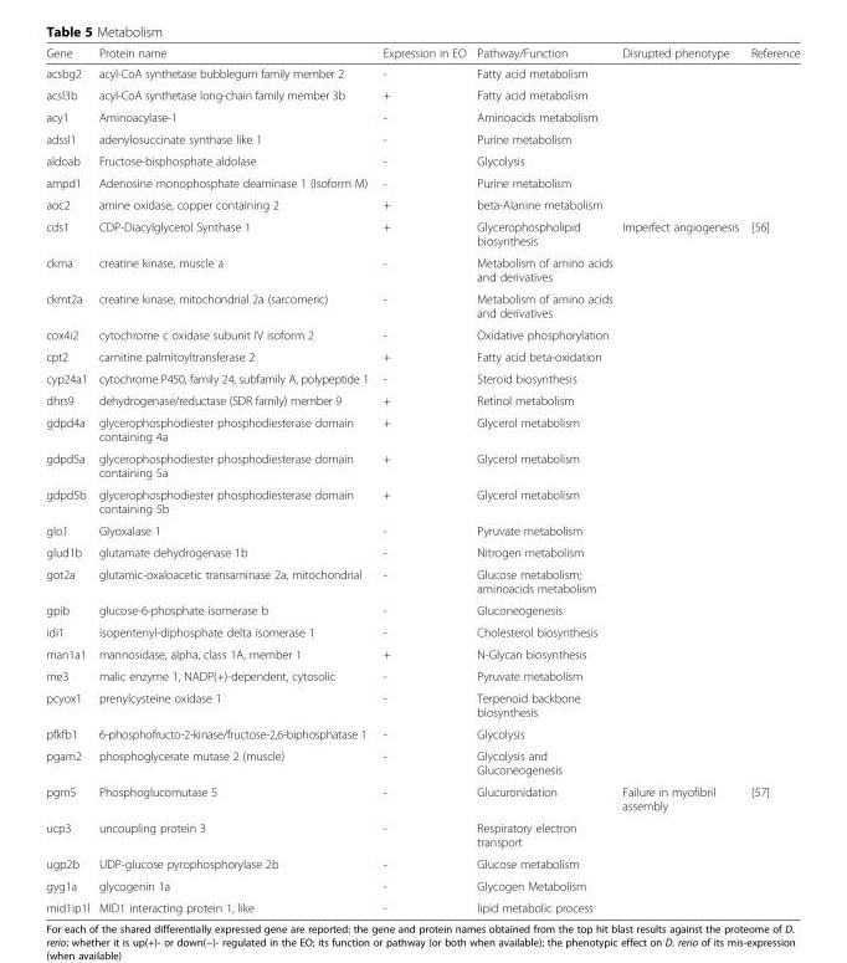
<table><thead><tr><td>Gene</td><td>Protein name</td><td>Expression in EO</td><td>Pathway/Function</td><td>Disrupted phenotype</td><td>Reference</td></tr></thead><tbody><tr><td>acsbg2</td><td>acyl-CoA synthetase bubblegum family member 2</td><td>-</td><td>Fatty acid metabolism</td><td></td><td></td></tr><tr><td>acsl3b</td><td>acyl-CoA synthetase long-chain family member 3b</td><td>+</td><td>Fatty acid metabolism</td><td></td><td></td></tr><tr><td>acy1</td><td>Aminoacylase-1</td><td>-</td><td>Aminoacids metabolism</td><td></td><td></td></tr><tr><td>adssl1</td><td>adenylosuccinate synthase like 1</td><td>-</td><td>Purine metabolism</td><td></td><td></td></tr><tr><td>aldoab</td><td>Fructose-bisphosphate aldolase</td><td>-</td><td>Glycolysis</td><td></td><td></td></tr><tr><td>ampd1</td><td>Adenosine monophosphate deaminase 1 (Isoform M)</td><td>-</td><td>Purine metabolism</td><td></td><td></td></tr><tr><td>aoc2</td><td>amine oxidase, copper containing 2</td><td>+</td><td>beta-Alanine metabolism</td><td></td><td></td></tr><tr><td>cds1</td><td>CDP-Diacylglycerol Synthase 1</td><td>+</td><td>Glycerophospholipid biosynthesis</td><td>Imperfect angiogenesis</td><td>[56]</td></tr><tr><td>ckma</td><td>creatine kinase, muscle a</td><td>-</td><td>Metabolism of amino acids and derivatives</td><td></td><td></td></tr><tr><td>ckmt2a</td><td>creatine kinase, mitochondrial 2a (sarcomeric)</td><td>-</td><td>Metabolism of amino acids and derivatives</td><td></td><td></td></tr><tr><td>cox4i2</td><td>cytochrome c oxidase subunit IV isoform 2</td><td>-</td><td>Oxidative phosphorylation</td><td></td><td></td></tr><tr><td>cpt2</td><td>carnitine palmitoyltransferase 2</td><td>+</td><td>Fatty acid beta-oxidation</td><td></td><td></td></tr><tr><td>cyp24a1</td><td>cytochrome P450, family 24, subfamily A, polypeptide 1</td><td>-</td><td>Steroid biosynthesis</td><td></td><td></td></tr><tr><td>dhrs9</td><td>dehydrogenase/reductase (SDR family) member 9</td><td>+</td><td>Retinol metabolism</td><td></td><td></td></tr><tr><td>gdpd4a</td><td>glycerophosphodiester phosphodiesterase domain containing 4a</td><td>+</td><td>Glycerol metabolism</td><td></td><td></td></tr><tr><td>gdpd5a</td><td>glycerophosphodiester phosphodiesterase domain containing 5a</td><td>+</td><td>Glycerol metabolism</td><td></td><td></td></tr><tr><td>gdpd5b</td><td>glycerophosphodiester phosphodiesterase domain containing 5b</td><td>+</td><td>Glycerol metabolism</td><td></td><td></td></tr><tr><td>glo1</td><td>Glyoxalase 1</td><td>-</td><td>Pyruvate metabolism</td><td></td><td></td></tr><tr><td>glud1b</td><td>glutamate dehydrogenase 1b</td><td>-</td><td>Nitrogen metabolism</td><td></td><td></td></tr><tr><td>got2a</td><td>glutamic-oxaloacetic transaminase 2a, mitochondrial</td><td>-</td><td>Glucose metabolism; aminoacids metabolism</td><td></td><td></td></tr><tr><td>gpib</td><td>glucose-6-phosphate isomerase b</td><td>-</td><td>Gluconeogenesis</td><td></td><td></td></tr><tr><td>idi1</td><td>isopentenyl-diphosphate delta isomerase 1</td><td>-</td><td>Cholesterol biosynthesis</td><td></td><td></td></tr><tr><td>man1a1</td><td>mannosidase, alpha, class 1A, member 1</td><td>+</td><td>N-Glycan biosynthesis</td><td></td><td></td></tr><tr><td>me3</td><td>malic enzyme 1, NADP(+)-dependent, cytosolic</td><td>-</td><td>Pyruvate metabolism</td><td></td><td></td></tr><tr><td>pcyox1</td><td>prenylcysteine oxidase 1</td><td>-</td><td>Terpenoid backbone biosynthesis</td><td></td><td></td></tr><tr><td>pfkfb1</td><td>6-phosphofructo-2-kinase/fructose-2,6-biphosphatase 1</td><td>-</td><td>Glycolysis</td><td></td><td></td></tr><tr><td>pgam2</td><td>phosphoglycerate mutase 2 (muscle)</td><td>-</td><td>Glycolysis and Gluconeogenesis</td><td></td><td></td></tr><tr><td>pgm5</td><td>Phosphoglucomutase 5</td><td>-</td><td>Glucuronidation</td><td>Failure in myofibril assembly</td><td>[57]</td></tr><tr><td>ucp3</td><td>uncoupling protein 3</td><td>-</td><td>Respiratory electron transport</td><td></td><td></td></tr><tr><td>ugp2b</td><td>UDP-glucose pyrophosphorylase 2b</td><td>-</td><td>Glucose metabolism</td><td></td><td></td></tr><tr><td>gyg1a</td><td>glycogenin 1a</td><td>-</td><td>Glycogen Metabolism</td><td></td><td></td></tr><tr><td>mid1ip1l</td><td>MID1 interacting protein 1, like</td><td>-</td><td>lipid metabolic process</td><td></td><td></td></tr></tbody></table>